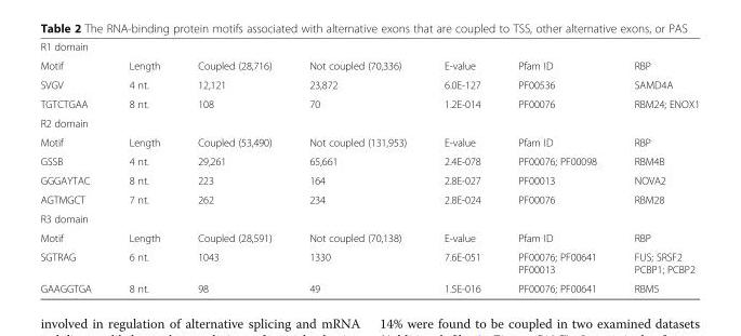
<table><tbody><tr><td colspan="7">R1 domain</td></tr><tr><td>Motif</td><td>Length</td><td>Coupled (28,716)</td><td>Not coupled (70,336)</td><td>E-value</td><td>Pfam ID</td><td>RBP</td></tr><tr><td>SVGV</td><td>4 nt.</td><td>12,121</td><td>23,872</td><td>6.0E-127</td><td>PF00536</td><td>SAMD4A</td></tr><tr><td>TGTCTGAA</td><td>8 nt.</td><td>108</td><td>70</td><td>1.2E-014</td><td>PF00076</td><td>RBM24; ENOX1</td></tr><tr><td colspan="7">R2 domain</td></tr><tr><td>Motif</td><td>Length</td><td>Coupled (53,490)</td><td>Not coupled (131,953)</td><td>E-value</td><td>Pfam ID</td><td>RBP</td></tr><tr><td>GSSB</td><td>4 nt.</td><td>29,261</td><td>65,661</td><td>2.4E-078</td><td>PF00076; PF00098</td><td>RBM4B</td></tr><tr><td>GGGAYTAC</td><td>8 nt.</td><td>223</td><td>164</td><td>2.8E-027</td><td>PF00013</td><td>NOVA2</td></tr><tr><td>AGTMGCT</td><td>7 nt.</td><td>262</td><td>234</td><td>2.8E-024</td><td>PF00076</td><td>RBM28</td></tr><tr><td colspan="7">R3 domain</td></tr><tr><td>Motif</td><td>Length</td><td>Coupled (28,591)</td><td>Not coupled (70,138)</td><td>E-value</td><td>Pfam ID</td><td>RBP</td></tr><tr><td>SGTRAG</td><td>6 nt.</td><td>1043</td><td>1330</td><td>7.6E-051</td><td>PF00076; PF00641 PF00013</td><td>FUS; SRSF2 PCBP1; PCBP2</td></tr><tr><td>GAAGGTGA</td><td>8 nt.</td><td>98</td><td>49</td><td>1.5E-016</td><td>PF00076; PF00641</td><td>RBM5</td></tr></tbody></table>